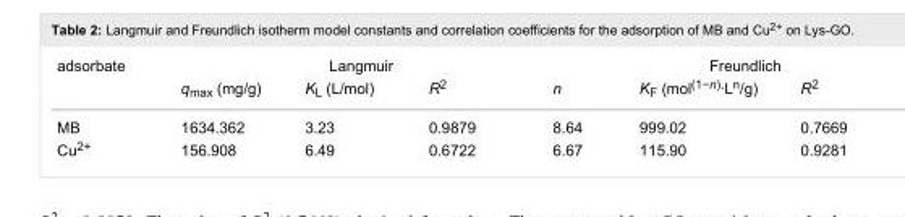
<table><tbody><tr><td rowspan="2">adsorbate</td><td colspan="3">Langmuir</td><td colspan="3">Freundlich</td></tr><tr><td>q<sub>max</sub> (mg/g)</td><td>K<sub>L</sub> (L/mol)</td><td>R<sup>2</sup></td><td>n</td><td>K<sub>F</sub> (mol<sup>(1−n)</sup>·L<sup>n</sup>/g)</td><td>R<sup>2</sup></td></tr><tr><td>MB</td><td>1634.362</td><td>3.23</td><td>0.9879</td><td>8.64</td><td>999.02</td><td>0.7669</td></tr><tr><td>Cu<sup>2+</sup></td><td>156.908</td><td>6.49</td><td>0.6722</td><td>6.67</td><td>115.90</td><td>0.9281</td></tr></tbody></table>